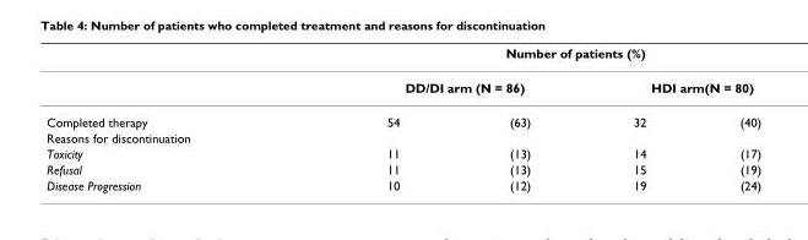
<table><thead><tr><td rowspan="3">Completed therapy</td><td colspan="4">Number of patients (%)</td></tr><tr><td colspan="2">DD/DI arm (N = 86)</td><td colspan="2">HDI arm(N = 80)</td></tr><tr><td>54</td><td>(63)</td><td>32</td><td>(40)</td></tr></thead><tbody><tr><td colspan="5">Reasons for discontinuation</td></tr><tr><td>Toxicity</td><td>11</td><td>(13)</td><td>14</td><td>(17)</td></tr><tr><td>Refusal</td><td>11</td><td>(13)</td><td>15</td><td>(19)</td></tr><tr><td>Disease Progression</td><td>10</td><td>(12)</td><td>19</td><td>(24)</td></tr></tbody></table>